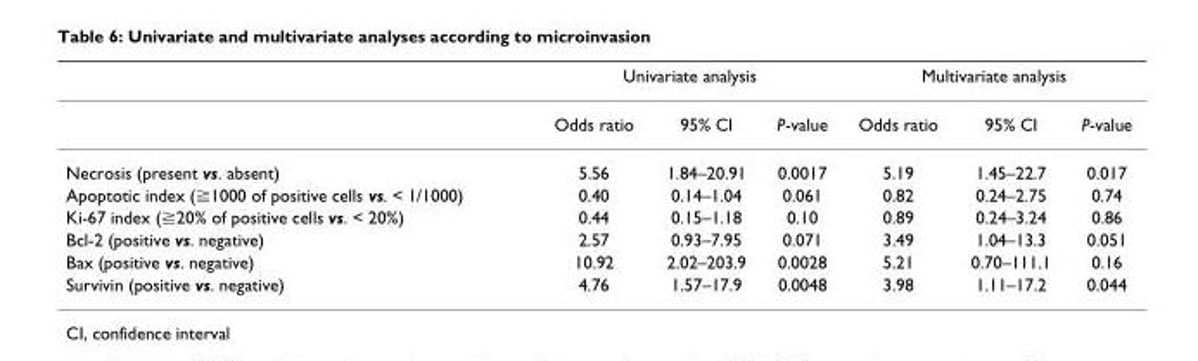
<table><thead><tr><td rowspan="2"></td><td colspan="3">Univariate analysis</td><td colspan="3">Multivariate analysis</td></tr><tr><td>Odds ratio</td><td>95% CI</td><td>P-value</td><td>Odds ratio</td><td>95% CI</td><td>P-value</td></tr></thead><tbody><tr><td>Necrosis (present vs. absent)</td><td>5.56</td><td>1.84–20.91</td><td>0.0017</td><td>5.19</td><td>1.45–22.7</td><td>0.017</td></tr><tr><td>Apoptotic index (≧1000 of positive cells vs. &lt; 1/1000)</td><td>0.40</td><td>0.14–1.04</td><td>0.061</td><td>0.82</td><td>0.24–2.75</td><td>0.74</td></tr><tr><td>Ki-67 index (≧20% of positive cells vs. &lt; 20%)</td><td>0.44</td><td>0.15–1.18</td><td>0.10</td><td>0.89</td><td>0.24–3.24</td><td>0.86</td></tr><tr><td>Bcl-2 (positive vs. negative)</td><td>2.57</td><td>0.93–7.95</td><td>0.071</td><td>3.49</td><td>1.04–13.3</td><td>0.051</td></tr><tr><td>Bax (positive vs. negative)</td><td>10.92</td><td>2.02–203.9</td><td>0.0028</td><td>5.21</td><td>0.70–111.1</td><td>0.16</td></tr><tr><td>Survivin (positive vs. negative)</td><td>4.76</td><td>1.57–17.9</td><td>0.0048</td><td>3.98</td><td>1.11–17.2</td><td>0.044</td></tr></tbody></table>